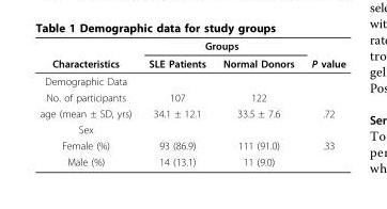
<table><thead><tr><td rowspan="2">Characteristics</td><td colspan="2">Groups</td><td rowspan="2">P value</td></tr><tr><td>SLE Patients</td><td>Normal Donors</td></tr></thead><tbody><tr><td colspan="4">Demographic Data</td></tr><tr><td>No. of participants</td><td>107</td><td>122</td><td></td></tr><tr><td>age (mean ± SD, yrs)</td><td>34.1 ± 12.1</td><td>33.5 ± 7.6</td><td>.72</td></tr><tr><td colspan="4">Sex</td></tr><tr><td>Female (%)</td><td>93 (86.9)</td><td>111 (91.0)</td><td>.33</td></tr><tr><td>Male (%)</td><td>14 (13.1)</td><td>11 (9.0)</td><td></td></tr></tbody></table>